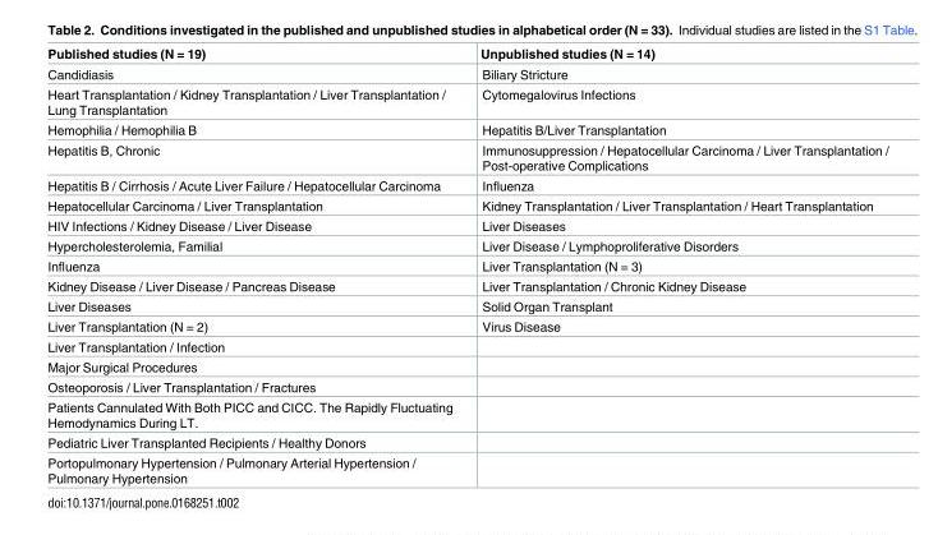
<table><thead><tr><td>Published studies (N = 19)</td><td>Unpublished studies (N = 14)</td></tr></thead><tbody><tr><td>Candidiasis</td><td>Biliary Stricture</td></tr><tr><td>Heart Transplantation / Kidney Transplantation / Liver Transplantation / Lung Transplantation</td><td>Cytomegalovirus Infections</td></tr><tr><td>Hemophilia / Hemophilia B</td><td>Hepatitis B/Liver Transplantation</td></tr><tr><td>Hepatitis B, Chronic</td><td>Immunosuppression / Hepatocellular Carcinoma / Liver Transplantation / Post-operative Complications</td></tr><tr><td>Hepatitis B / Cirrhosis / Acute Liver Failure / Hepatocellular Carcinoma</td><td>Influenza</td></tr><tr><td>Hepatocellular Carcinoma / Liver Transplantation</td><td>Kidney Transplantation / Liver Transplantation / Heart Transplantation</td></tr><tr><td>HIV Infections / Kidney Disease / Liver Disease</td><td>Liver Diseases</td></tr><tr><td>Hypercholesterolemia, Familial</td><td>Liver Disease / Lymphoproliferative Disorders</td></tr><tr><td>Influenza</td><td>Liver Transplantation (N = 3)</td></tr><tr><td>Kidney Disease / Liver Disease / Pancreas Disease</td><td>Liver Transplantation / Chronic Kidney Disease</td></tr><tr><td>Liver Diseases</td><td>Solid Organ Transplant</td></tr><tr><td>Liver Transplantation (N = 2)</td><td>Virus Disease</td></tr><tr><td colspan="2">Liver Transplantation / Infection</td></tr><tr><td colspan="2">Major Surgical Procedures</td></tr><tr><td colspan="2">Osteoporosis / Liver Transplantation / Fractures</td></tr><tr><td colspan="2">Patients Cannulated With Both PICC and CICC. The Rapidly Fluctuating Hemodynamics During LT.</td></tr><tr><td colspan="2">Pediatric Liver Transplanted Recipients / Healthy Donors</td></tr><tr><td>Portopulmonary Hypertension / Pulmonary Arterial Hypertension / Pulmonary Hypertension</td><td></td></tr></tbody></table>